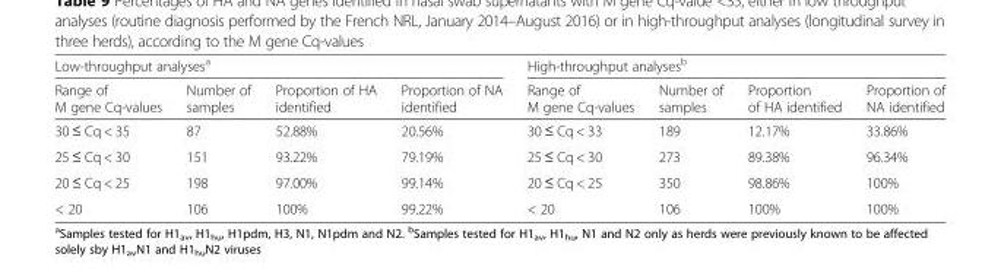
<table><thead><tr><td colspan="4">Low-throughput analyses<sup>a</sup></td><td colspan="4">High-throughput analyses<sup>b</sup></td></tr><tr><td>Range of M gene Cq-values</td><td>Number of samples</td><td>Proportion of HA identified</td><td>Proportion of NA identified</td><td>Range of M gene Cq-values</td><td>Number of samples</td><td>Proportion of HA identified</td><td>Proportion of NA identified</td></tr></thead><tbody><tr><td>30 ≤ Cq &lt; 35</td><td>87</td><td>52.88%</td><td>20.56%</td><td>30 ≤ Cq &lt; 33</td><td>189</td><td>12.17%</td><td>33.86%</td></tr><tr><td>25 ≤ Cq &lt; 30</td><td>151</td><td>93.22%</td><td>79.19%</td><td>25 ≤ Cq &lt; 30</td><td>273</td><td>89.38%</td><td>96.34%</td></tr><tr><td>20 ≤ Cq &lt; 25</td><td>198</td><td>97.00%</td><td>99.14%</td><td>20 ≤ Cq &lt; 25</td><td>350</td><td>98.86%</td><td>100%</td></tr><tr><td>&lt; 20</td><td>106</td><td>100%</td><td>99.22%</td><td>&lt; 20</td><td>106</td><td>100%</td><td>100%</td></tr></tbody></table>